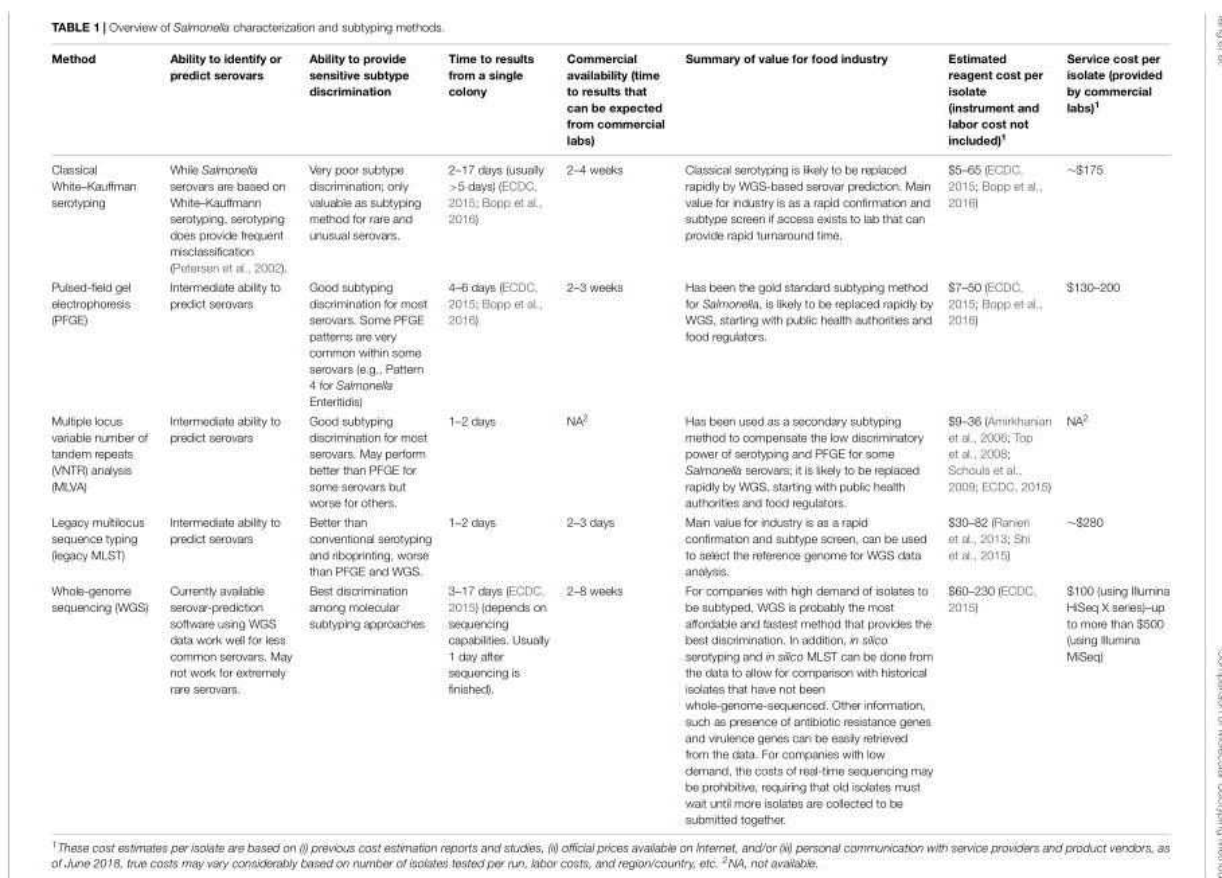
<table><thead><tr><td>Method</td><td>Ability to identify or predict serovars</td><td>Ability to provide sensitive subtype discrimination</td><td>Time to results from a single colony</td><td>Commercial availability (time to results that can be expected from commercial labs)</td><td>Summary of value for food industry</td><td>Estimated reagent cost per isolate (instrument and labor cost not included)<sup>1</sup></td><td>Service cost per isolate (provided by commercial labs)<sup>1</sup></td></tr></thead><tbody><tr><td>Classical White–Kauffman serotyping</td><td>While Salmonella serovars are based on White–Kauffmann serotyping, serotyping does provide frequent misclassification (Petersen et al., 2002).</td><td>Very poor subtype discrimination; only valuable as subtyping method for rare and unusual serovars.</td><td>2–17 days (usually &gt;5 days) (ECDC, 2015; Bopp et al., 2016)</td><td>2–4 weeks</td><td>Classical serotyping is likely to be replaced rapidly by WGS-based serovar prediction. Main value for industry is as a rapid confirmation and subtype screen if access exists to lab that can provide rapid turnaround time.</td><td>$5–65 (ECDC, 2015; Bopp et al., 2016)</td><td>∼$175</td></tr><tr><td>Pulsed-field gel electrophoresis (PFGE)</td><td>Intermediate ability to predict serovars</td><td>Good subtyping discrimination for most serovars. Some PFGE patterns are very common within some serovars (e.g., Pattern 4 for Salmonella Enteritidis)</td><td>4–6 days (ECDC, 2015; Bopp et al., 2016)</td><td>2–3 weeks</td><td>Has been the gold standard subtyping method for Salmonella, is likely to be replaced rapidly by WGS, starting with public health authorities and food regulators.</td><td>$7–50 (ECDC, 2015; Bopp et al., 2016)</td><td>$130–200</td></tr><tr><td>Multiple locus variable number of tandem repeats (VNTR) analysis (MLVA)</td><td>Intermediate ability to predict serovars</td><td>Good subtyping discrimination for most serovars. May perform better than PFGE for some serovars but worse for others.</td><td>1–2 days</td><td>NA<sup>2</sup></td><td>Has been used as a secondary subtyping method to compensate the low discriminatory power of serotyping and PFGE for some Salmonella serovars; it is likely to be replaced rapidly by WGS, starting with public health authorities and food regulators.</td><td>$9–36 (Amirkhanian et al., 2006; Top et al., 2008; Schouls et al., 2009; ECDC, 2015)</td><td>NA<sup>2</sup></td></tr><tr><td>Legacy multilocus sequence typing (legacy MLST)</td><td>Intermediate ability to predict serovars</td><td>Better than conventional serotyping and riboprinting, worse than PFGE and WGS.</td><td>1–2 days</td><td>2–3 days</td><td>Main value for industry is as a rapid confirmation and subtype screen, can be used to select the reference genome for WGS data analysis.</td><td>$30–82 (Ranieri et al., 2013; Shi et al., 2015)</td><td>∼$280</td></tr><tr><td>Whole-genome sequencing (WGS)</td><td>Currently available serovar-prediction software using WGS data work well for less common serovars. May not work for extremely rare serovars.</td><td>Best discrimination among molecular subtyping approaches</td><td>3–17 days (ECDC, 2015) (depends on sequencing capabilities. Usually 1 day after sequencing is finished).</td><td>2–8 weeks</td><td>For companies with high demand of isolates to be subtyped, WGS is probably the most affordable and fastest method that provides the best discrimination. In addition, in silico serotyping and in silico MLST can be done from the data to allow for comparison with historical isolates that have not been whole-genome-sequenced. Other information, such as presence of antibiotic resistance genes and virulence genes can be easily retrieved from the data. For companies with low demand, the costs of real-time sequencing may be prohibitive, requiring that old isolates must wait until more isolates are collected to be submitted together.</td><td>$60–230 (ECDC, 2015)</td><td>$100 (using Illumina HiSeq X series)–up to more than $500 (using Illumina MiSeq)</td></tr></tbody></table>